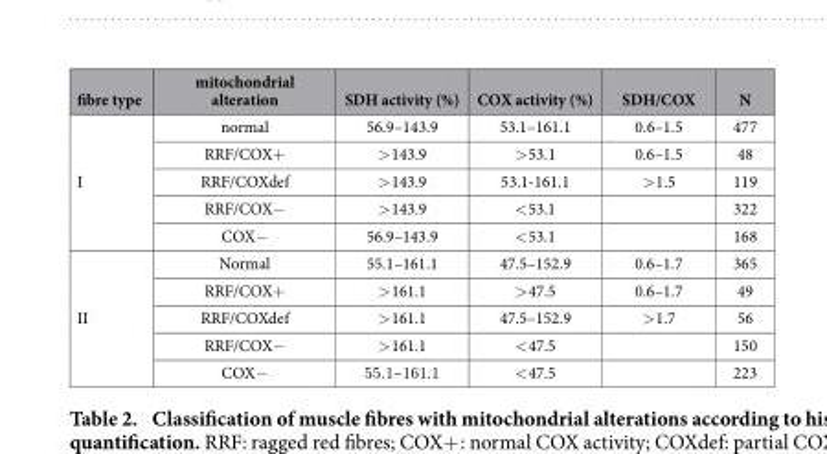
<table><thead><tr><td>fibre type</td><td>mitochondrial alteration</td><td>SDH activity (%)</td><td>COX activity (%)</td><td>SDH/COX</td><td>N</td></tr></thead><tbody><tr><td rowspan="5">I</td><td>normal</td><td>56.9–143.9</td><td>53.1–161.1</td><td>0.6–1.5</td><td>477</td></tr><tr><td>RRF/COX+</td><td>&gt; 143.9</td><td>&gt; 53.1</td><td>0.6–1.5</td><td>48</td></tr><tr><td>RRF/COXdef</td><td>&gt; 143.9</td><td>53.1-161.1</td><td>&gt; 1.5</td><td>119</td></tr><tr><td>RRF/COX−</td><td>&gt; 143.9</td><td>&lt; 53.1</td><td></td><td>322</td></tr><tr><td>COX−</td><td>56.9–143.9</td><td>&lt; 53.1</td><td></td><td>168</td></tr><tr><td rowspan="5">II</td><td>Normal</td><td>55.1–161.1</td><td>47.5–152.9</td><td>0.6–1.7</td><td>365</td></tr><tr><td>RRF/COX+</td><td>&gt; 161.1</td><td>&gt; 47.5</td><td>0.6–1.7</td><td>49</td></tr><tr><td>RRF/COXdef</td><td>&gt; 161.1</td><td>47.5–152.9</td><td>&gt; 1.7</td><td>56</td></tr><tr><td>RRF/COX−</td><td>&gt; 161.1</td><td>&lt; 47.5</td><td></td><td>150</td></tr><tr><td>COX−</td><td>55.1–161.1</td><td>&lt; 47.5</td><td></td><td>223</td></tr></tbody></table>